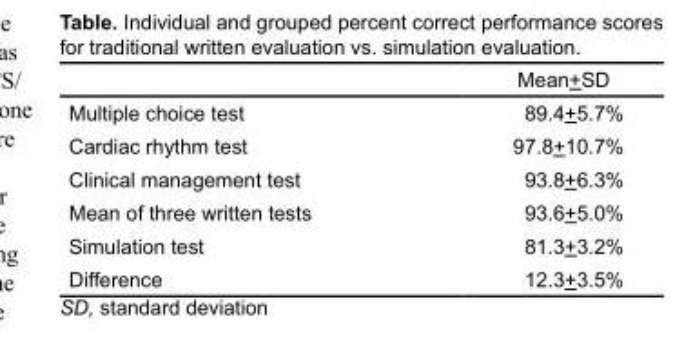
<table><thead><tr><td></td><td>Mean+SD</td></tr></thead><tbody><tr><td>Multiple choice test</td><td>89.4+5.7%</td></tr><tr><td>Cardiac rhythm test</td><td>97.8+10.7%</td></tr><tr><td>Clinical management test</td><td>93.8+6.3%</td></tr><tr><td>Mean of three written tests</td><td>93.6+5.0%</td></tr><tr><td>Simulation test</td><td>81.3+3.2%</td></tr><tr><td>Difference</td><td>12.3+3.5%</td></tr></tbody></table>